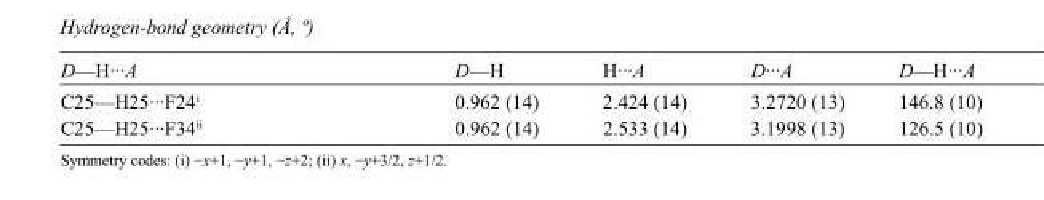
<table><tbody><tr><td>D—H···A</td><td>D—H</td><td>H···A</td><td>D···A</td><td>D—H···A</td></tr><tr><td>C25—H25···F24<sup>i</sup></td><td>0.962 (14)</td><td>2.424 (14)</td><td>3.2720 (13)</td><td>146.8 (10)</td></tr><tr><td>C25—H25···F34<sup>ii</sup></td><td>0.962 (14)</td><td>2.533 (14)</td><td>3.1998 (13)</td><td>126.5 (10)</td></tr></tbody></table>